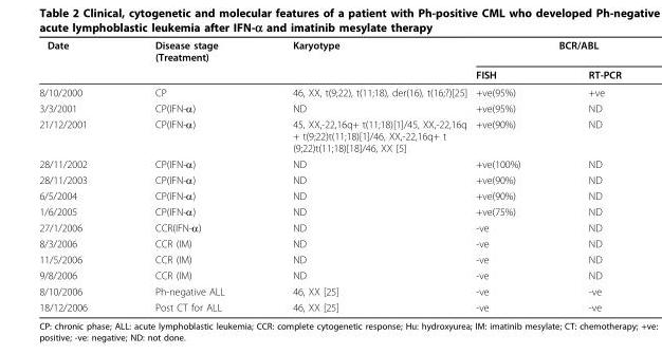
<table><thead><tr><td rowspan="2">Date</td><td rowspan="2">Disease stage (Treatment)</td><td rowspan="2">Karyotype</td><td colspan="2">BCR/ABL</td></tr><tr><td>FISH</td><td>RT-PCR</td></tr></thead><tbody><tr><td>8/10/2000</td><td>CP</td><td>46, XX, t(9;22), t(11;18), der(16), t(16;?)[25]</td><td>+ve(95%)</td><td>+ve</td></tr><tr><td>3/3/2001</td><td>CP(IFN-α)</td><td>ND</td><td>+ve(95%)</td><td>ND</td></tr><tr><td>21/12/2001</td><td>CP(IFN-α)</td><td>45, XX,-22,16q+ t(11;18)[1]/45, XX,-22,16q + t(9;22)t(11;18)[1]/46, XX,-22,16q+ t (9;22)t(11;18)[18]/46, XX [5]</td><td>+ve(90%)</td><td>ND</td></tr><tr><td>28/11/2002</td><td>CP(IFN-α)</td><td>ND</td><td>+ve(100%)</td><td>ND</td></tr><tr><td>28/11/2003</td><td>CP(IFN-α)</td><td>ND</td><td>+ve(90%)</td><td>ND</td></tr><tr><td>6/5/2004</td><td>CP(IFN-α)</td><td>ND</td><td>+ve(90%)</td><td>ND</td></tr><tr><td>1/6/2005</td><td>CP(IFN-α)</td><td>ND</td><td>+ve(75%)</td><td>ND</td></tr><tr><td>27/1/2006</td><td>CCR(IFN-α)</td><td>ND</td><td>-ve</td><td>ND</td></tr><tr><td>8/3/2006</td><td>CCR (IM)</td><td>ND</td><td>-ve</td><td>ND</td></tr><tr><td>11/5/2006</td><td>CCR (IM)</td><td>ND</td><td>-ve</td><td>ND</td></tr><tr><td>9/8/2006</td><td>CCR (IM)</td><td>ND</td><td>-ve</td><td>ND</td></tr><tr><td>8/10/2006</td><td>Ph-negative ALL</td><td>46, XX [25]</td><td>-ve</td><td>-ve</td></tr><tr><td>18/12/2006</td><td>Post CT for ALL</td><td>46, XX [25]</td><td>-ve</td><td>-ve</td></tr></tbody></table>